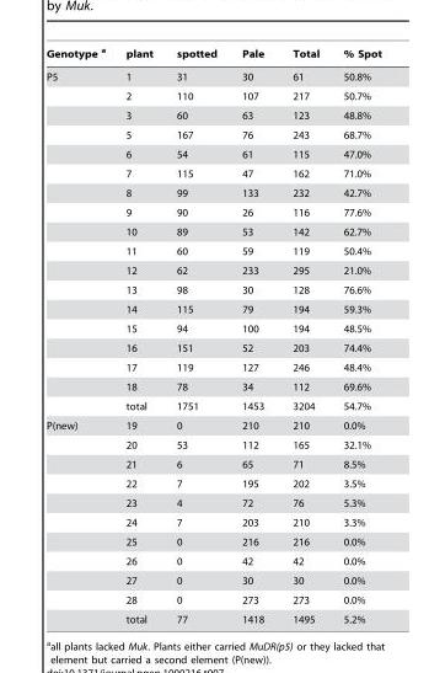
<table><thead><tr><td>Genotype a</td><td>plant</td><td>spotted</td><td>Pale</td><td>Total</td><td>% Spot</td></tr></thead><tbody><tr><td rowspan="18">P5</td><td>1</td><td>31</td><td>30</td><td>61</td><td>50.8%</td></tr><tr><td>2</td><td>110</td><td>107</td><td>217</td><td>50.7%</td></tr><tr><td>3</td><td>60</td><td>63</td><td>123</td><td>48.8%</td></tr><tr><td>5</td><td>167</td><td>76</td><td>243</td><td>68.7%</td></tr><tr><td>6</td><td>54</td><td>61</td><td>115</td><td>47.0%</td></tr><tr><td>7</td><td>115</td><td>47</td><td>162</td><td>71.0%</td></tr><tr><td>8</td><td>99</td><td>133</td><td>232</td><td>42.7%</td></tr><tr><td>9</td><td>90</td><td>26</td><td>116</td><td>77.6%</td></tr><tr><td>10</td><td>89</td><td>53</td><td>142</td><td>62.7%</td></tr><tr><td>11</td><td>60</td><td>59</td><td>119</td><td>50.4%</td></tr><tr><td>12</td><td>62</td><td>233</td><td>295</td><td>21.0%</td></tr><tr><td>13</td><td>98</td><td>30</td><td>128</td><td>76.6%</td></tr><tr><td>14</td><td>115</td><td>79</td><td>194</td><td>59.3%</td></tr><tr><td>15</td><td>94</td><td>100</td><td>194</td><td>48.5%</td></tr><tr><td>16</td><td>151</td><td>52</td><td>203</td><td>74.4%</td></tr><tr><td>17</td><td>119</td><td>127</td><td>246</td><td>48.4%</td></tr><tr><td>18</td><td>78</td><td>34</td><td>112</td><td>69.6%</td></tr><tr><td>total</td><td>1751</td><td>1453</td><td>3204</td><td>54.7%</td></tr><tr><td rowspan="11">P(new)</td><td>19</td><td>0</td><td>210</td><td>210</td><td>0.0%</td></tr><tr><td>20</td><td>53</td><td>112</td><td>165</td><td>32.1%</td></tr><tr><td>21</td><td>6</td><td>65</td><td>71</td><td>8.5%</td></tr><tr><td>22</td><td>7</td><td>195</td><td>202</td><td>3.5%</td></tr><tr><td>23</td><td>4</td><td>72</td><td>76</td><td>5.3%</td></tr><tr><td>24</td><td>7</td><td>203</td><td>210</td><td>3.3%</td></tr><tr><td>25</td><td>0</td><td>216</td><td>216</td><td>0.0%</td></tr><tr><td>26</td><td>0</td><td>42</td><td>42</td><td>0.0%</td></tr><tr><td>27</td><td>0</td><td>30</td><td>30</td><td>0.0%</td></tr><tr><td>28</td><td>0</td><td>273</td><td>273</td><td>0.0%</td></tr><tr><td>total</td><td>77</td><td>1418</td><td>1495</td><td>5.2%</td></tr></tbody></table>